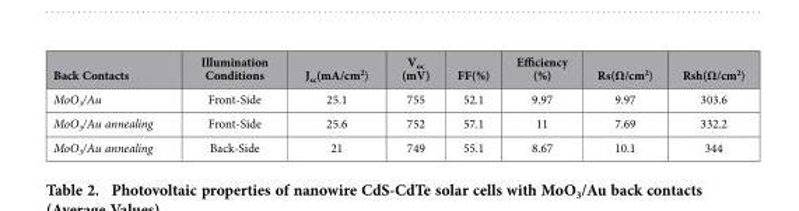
<table><thead><tr><td>Back Contacts</td><td>Illumination Conditions</td><td>J<sub>sc</sub>(mA/cm<sup>2</sup>)</td><td>V<sub>oc</sub> (mV)</td><td>FF(%)</td><td>Efficiency (%)</td><td>Rs(Ω/cm<sup>2</sup>)</td><td>Rsh(Ω/cm<sup>2</sup>)</td></tr></thead><tbody><tr><td>MoO<sub>3</sub>/Au</td><td>Front-Side</td><td>25.1</td><td>755</td><td>52.1</td><td>9.97</td><td>9.97</td><td>303.6</td></tr><tr><td>MoO<sub>3</sub>/Au annealing</td><td>Front-Side</td><td>25.6</td><td>752</td><td>57.1</td><td>11</td><td>7.69</td><td>332.2</td></tr><tr><td>MoO<sub>3</sub>/Au annealing</td><td>Back-Side</td><td>21</td><td>749</td><td>55.1</td><td>8.67</td><td>10.1</td><td>344</td></tr></tbody></table>